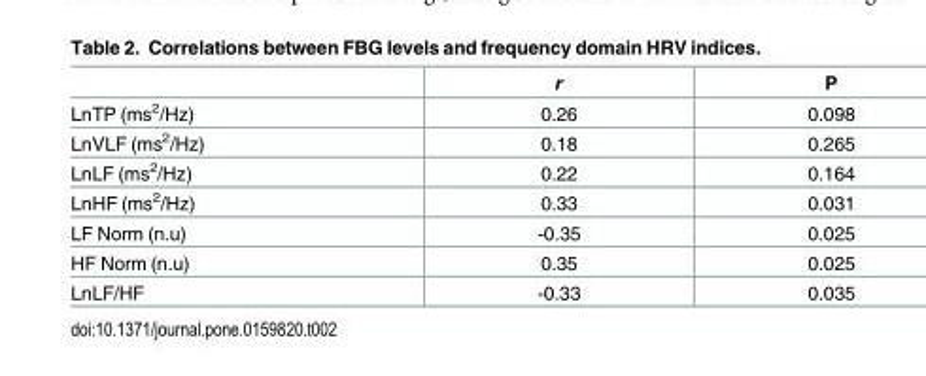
<table><thead><tr><td></td><td>r</td><td>P</td></tr></thead><tbody><tr><td>LnTP (ms<sup>2</sup>/Hz)</td><td>0.26</td><td>0.098</td></tr><tr><td>LnVLF (ms<sup>2</sup>/Hz)</td><td>0.18</td><td>0.265</td></tr><tr><td>LnLF (ms<sup>2</sup>/Hz)</td><td>0.22</td><td>0.164</td></tr><tr><td>LnHF (ms<sup>2</sup>/Hz)</td><td>0.33</td><td>0.031</td></tr><tr><td>LF Norm (n.u)</td><td>-0.35</td><td>0.025</td></tr><tr><td>HF Norm (n.u)</td><td>0.35</td><td>0.025</td></tr><tr><td>LnLF/HF</td><td>-0.33</td><td>0.035</td></tr></tbody></table>